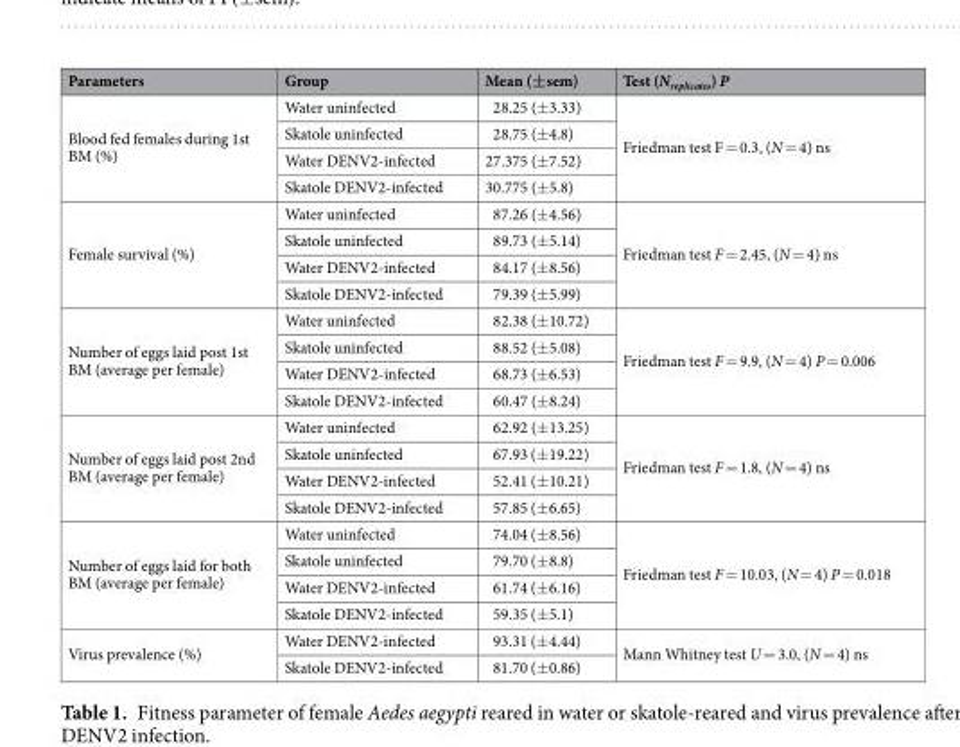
<table><thead><tr><td>Parameters</td><td>Group</td><td>Mean (±sem)</td><td>Test (N<sub>replicates</sub>) P</td></tr></thead><tbody><tr><td rowspan="4">Blood fed females during 1st BM (%)</td><td>Water uninfected</td><td>28.25 (±3.33)</td><td rowspan="4">Friedman test F = 0.3, (N = 4) ns</td></tr><tr><td>Skatole uninfected</td><td>28.75 (±4.8)</td></tr><tr><td>Water DENV2-infected</td><td>27.375 (±7.52)</td></tr><tr><td>Skatole DENV2-infected</td><td>30.775 (±5.8)</td></tr><tr><td rowspan="4">Female survival (%)</td><td>Water uninfected</td><td>87.26 (±4.56)</td><td rowspan="4">Friedman test F = 2.45, (N = 4) ns</td></tr><tr><td>Skatole uninfected</td><td>89.73 (±5.14)</td></tr><tr><td>Water DENV2-infected</td><td>84.17 (±8.56)</td></tr><tr><td>Skatole DENV2-infected</td><td>79.39 (±5.99)</td></tr><tr><td rowspan="4">Number of eggs laid post 1st BM (average per female)</td><td>Water uninfected</td><td>82.38 (±10.72)</td><td rowspan="4">Friedman test F = 9.9, (N = 4) P = 0.006</td></tr><tr><td>Skatole uninfected</td><td>88.52 (±5.08)</td></tr><tr><td>Water DENV2-infected</td><td>68.73 (±6.53)</td></tr><tr><td>Skatole DENV2-infected</td><td>60.47 (±8.24)</td></tr><tr><td rowspan="4">Number of eggs laid post 2nd BM (average per female)</td><td>Water uninfected</td><td>62.92 (±13.25)</td><td rowspan="4">Friedman test F = 1.8, (N = 4) ns</td></tr><tr><td>Skatole uninfected</td><td>67.93 (±19.22)</td></tr><tr><td>Water DENV2-infected</td><td>52.41 (±10.21)</td></tr><tr><td>Skatole DENV2-infected</td><td>57.85 (±6.65)</td></tr><tr><td rowspan="4">Number of eggs laid for both BM (average per female)</td><td>Water uninfected</td><td>74.04 (±8.56)</td><td rowspan="4">Friedman test F = 10.03, (N = 4) P = 0.018</td></tr><tr><td>Skatole uninfected</td><td>79.70 (±8.8)</td></tr><tr><td>Water DENV2-infected</td><td>61.74 (±6.16)</td></tr><tr><td>Skatole DENV2-infected</td><td>59.35 (±5.1)</td></tr><tr><td rowspan="2">Virus prevalence (%)</td><td>Water DENV2-infected</td><td>93.31 (±4.44)</td><td rowspan="2">Mann Whitney test U = 3.0, (N = 4) ns</td></tr><tr><td>Skatole DENV2-infected</td><td>81.70 (±0.86)</td></tr></tbody></table>